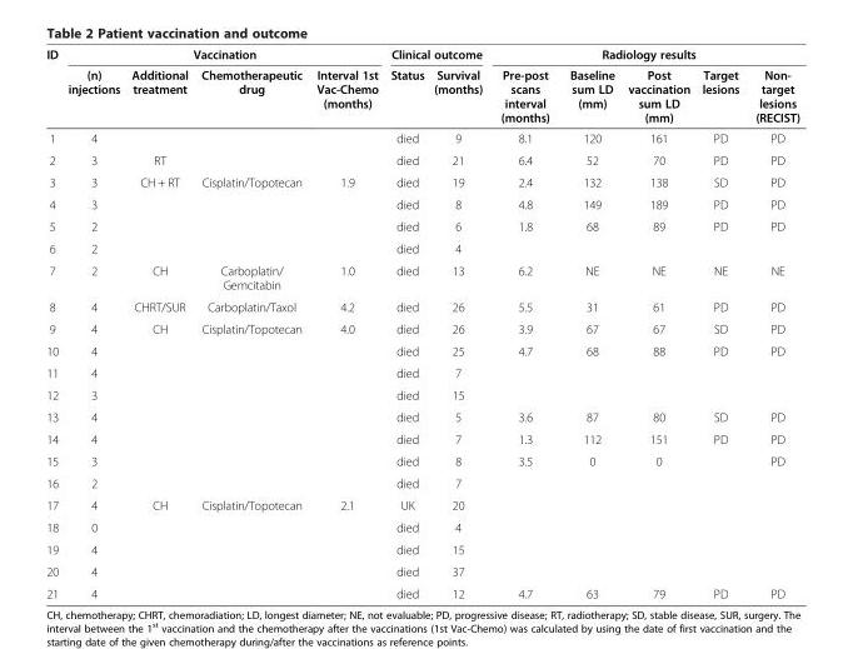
<table><thead><tr><td rowspan="2">ID</td><td colspan="4">Vaccination</td><td colspan="2">Clinical outcome</td><td colspan="5">Radiology results</td></tr><tr><td>(n) injections</td><td>Additional treatment</td><td>Chemotherapeutic drug</td><td>Interval 1st Vac-Chemo (months)</td><td>Status</td><td>Survival (months)</td><td>Pre-post scans interval (months)</td><td>Baseline sum LD (mm)</td><td>Post vaccination sum LD (mm)</td><td>Target lesions</td><td>Non- target lesions (RECIST)</td></tr></thead><tbody><tr><td>1</td><td>4</td><td></td><td></td><td></td><td>died</td><td>9</td><td>8.1</td><td>120</td><td>161</td><td>PD</td><td>PD</td></tr><tr><td>2</td><td>3</td><td>RT</td><td></td><td></td><td>died</td><td>21</td><td>6.4</td><td>52</td><td>70</td><td>PD</td><td>PD</td></tr><tr><td>3</td><td>3</td><td>CH + RT</td><td>Cisplatin/Topotecan</td><td>1.9</td><td>died</td><td>19</td><td>2.4</td><td>132</td><td>138</td><td>SD</td><td>PD</td></tr><tr><td>4</td><td>3</td><td></td><td></td><td></td><td>died</td><td>8</td><td>4.8</td><td>149</td><td>189</td><td>PD</td><td>PD</td></tr><tr><td>5</td><td>2</td><td></td><td></td><td></td><td>died</td><td>6</td><td>1.8</td><td>68</td><td>89</td><td>PD</td><td>PD</td></tr><tr><td>6</td><td>2</td><td></td><td></td><td></td><td>died</td><td>4</td><td></td><td></td><td></td><td></td><td></td></tr><tr><td>7</td><td>2</td><td>CH</td><td>Carboplatin/ Gemcitabin</td><td>1.0</td><td>died</td><td>13</td><td>6.2</td><td>NE</td><td>NE</td><td>NE</td><td>NE</td></tr><tr><td>8</td><td>4</td><td>CHRT/SUR</td><td>Carboplatin/Taxol</td><td>4.2</td><td>died</td><td>26</td><td>5.5</td><td>31</td><td>61</td><td>PD</td><td>PD</td></tr><tr><td>9</td><td>4</td><td>CH</td><td>Cisplatin/Topotecan</td><td>4.0</td><td>died</td><td>26</td><td>3.9</td><td>67</td><td>67</td><td>SD</td><td>PD</td></tr><tr><td>10</td><td>4</td><td></td><td></td><td></td><td>died</td><td>25</td><td>4.7</td><td>68</td><td>88</td><td>PD</td><td>PD</td></tr><tr><td>11</td><td>4</td><td></td><td></td><td></td><td>died</td><td>7</td><td></td><td></td><td></td><td></td><td></td></tr><tr><td>12</td><td>3</td><td></td><td></td><td></td><td>died</td><td>15</td><td></td><td></td><td></td><td></td><td></td></tr><tr><td>13</td><td>4</td><td></td><td></td><td></td><td>died</td><td>5</td><td>3.6</td><td>87</td><td>80</td><td>SD</td><td>PD</td></tr><tr><td>14</td><td>4</td><td></td><td></td><td></td><td>died</td><td>7</td><td>1.3</td><td>112</td><td>151</td><td>PD</td><td>PD</td></tr><tr><td>15</td><td>3</td><td></td><td></td><td></td><td>died</td><td>8</td><td>3.5</td><td>0</td><td>0</td><td></td><td>PD</td></tr><tr><td>16</td><td>2</td><td></td><td></td><td></td><td>died</td><td>7</td><td></td><td></td><td></td><td></td><td></td></tr><tr><td>17</td><td>4</td><td>CH</td><td>Cisplatin/Topotecan</td><td>2.1</td><td>UK</td><td>20</td><td></td><td></td><td></td><td></td><td></td></tr><tr><td>18</td><td>0</td><td></td><td></td><td></td><td>died</td><td>4</td><td></td><td></td><td></td><td></td><td></td></tr><tr><td>19</td><td>4</td><td></td><td></td><td></td><td>died</td><td>15</td><td></td><td></td><td></td><td></td><td></td></tr><tr><td>20</td><td>4</td><td></td><td></td><td></td><td>died</td><td>37</td><td></td><td></td><td></td><td></td><td></td></tr><tr><td>21</td><td>4</td><td></td><td></td><td></td><td>died</td><td>12</td><td>4.7</td><td>63</td><td>79</td><td>PD</td><td>PD</td></tr></tbody></table>